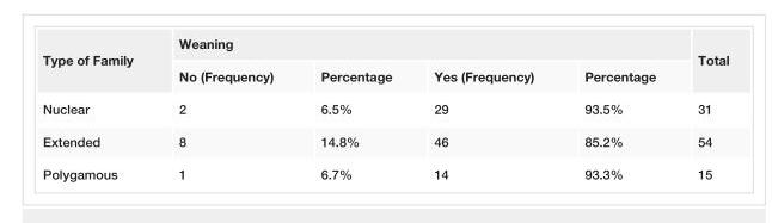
<table><tbody><tr><td rowspan="2">Type of Family</td><td colspan="4">Weaning</td><td rowspan="2">Total</td></tr><tr><td>No (Frequency)</td><td>Percentage</td><td>Yes (Frequency)</td><td>Percentage</td></tr><tr><td>Nuclear</td><td>2</td><td>6.5%</td><td>29</td><td>93.5%</td><td>31</td></tr><tr><td>Extended</td><td>8</td><td>14.8%</td><td>46</td><td>85.2%</td><td>54</td></tr><tr><td>Polygamous</td><td>1</td><td>6.7%</td><td>14</td><td>93.3%</td><td>15</td></tr></tbody></table>